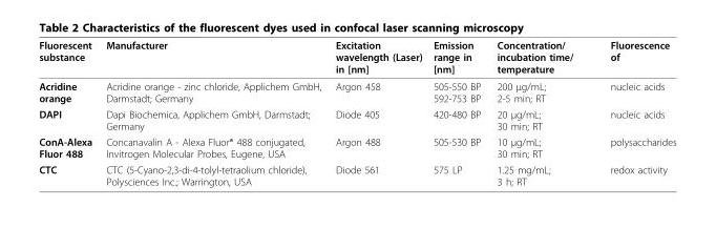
<table><thead><tr><td>Fluorescent substance</td><td>Manufacturer</td><td>Excitation wavelength (Laser) in [nm]</td><td>Emission range in [nm]</td><td>Concentration/ incubation time/ temperature</td><td>Fluorescence of</td></tr></thead><tbody><tr><td>Acridine orange</td><td>Acridine orange - zinc chloride, Applichem GmbH, Darmstadt; Germany</td><td>Argon 458</td><td>505-550 BP 592-753 BP</td><td>200 μg/mL; 2-5 min; RT</td><td>nucleic acids</td></tr><tr><td>DAPI</td><td>Dapi Biochemica, Applichem GmbH, Darmstadt; Germany</td><td>Diode 405</td><td>420-480 BP</td><td>20 μg/mL; 30 min; RT</td><td>nucleic acids</td></tr><tr><td>ConA-Alexa Fluor 488</td><td>Concanavalin A - Alexa Fluor<sup>®</sup> 488 conjugated, Invitrogen Molecular Probes, Eugene, USA</td><td>Argon 488</td><td>505-530 BP</td><td>10 μg/mL; 30 min; RT</td><td>polysaccharides</td></tr><tr><td>CTC</td><td>CTC (5-Cyano-2,3-di-4-tolyl-tetraolium chloride), Polysciences Inc.; Warrington, USA</td><td>Diode 561</td><td>575 LP</td><td>1.25 mg/mL; 3 h; RT</td><td>redox activity</td></tr></tbody></table>